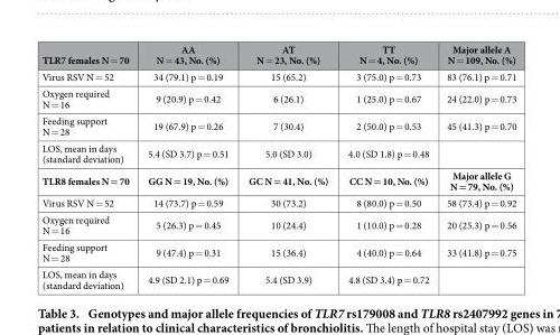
<table><thead><tr><td>TLR7 females N = 70</td><td>AA N = 43, No. (%)</td><td>AT N = 23, No. (%)</td><td>TT N = 4, No. (%)</td><td>Major allele A N = 109, No. (%)</td></tr></thead><tbody><tr><td>Virus RSV N = 52</td><td>34 (79.1) p = 0.19</td><td>15 (65.2)</td><td>3 (75.0) p = 0.73</td><td>83 (76.1) p = 0.71</td></tr><tr><td>Oxygen required N = 16</td><td>9 (20.9) p = 0.42</td><td>6 (26.1)</td><td>1 (25.0) p = 0.67</td><td>24 (22.0) p = 0.73</td></tr><tr><td>Feeding support N = 28</td><td>19 (67.9) p = 0.26</td><td>7 (30.4)</td><td>2 (50.0) p = 0.53</td><td>45 (41.3) p = 0.70</td></tr><tr><td>LOS, mean in days (standard deviation)</td><td>5.4 (SD 3.7) p = 0.51</td><td>5.0 (SD 3.0)</td><td>4.0 (SD 1.8) p = 0.48</td><td></td></tr><tr><td>TLR8 females N = 70</td><td>GG N = 19, No. (%)</td><td>GC N = 41, No. (%)</td><td>CC N = 10, No. (%)</td><td>Major allele G N = 79, No. (%)</td></tr><tr><td>Virus RSV N = 52</td><td>14 (73.7) p = 0.59</td><td>30 (73.2)</td><td>8 (80.0) p = 0.50</td><td>58 (73.4) p = 0.92</td></tr><tr><td>Oxygen required N = 16</td><td>5 (26.3) p = 0.45</td><td>10 (24.4)</td><td>1 (10.0) p = 0.28</td><td>20 (25.3) p = 0.56</td></tr><tr><td>Feeding support N = 28</td><td>9 (47.4) p = 0.31</td><td>15 (36.4)</td><td>4 (40.0) p = 0.64</td><td>33 (41.8) p = 0.75</td></tr><tr><td>LOS, mean in days (standard deviation)</td><td>4.9 (SD 2.1) p = 0.69</td><td>5.4 (SD 3.9)</td><td>4.8 (SD 3.4) p = 0.72</td><td></td></tr></tbody></table>